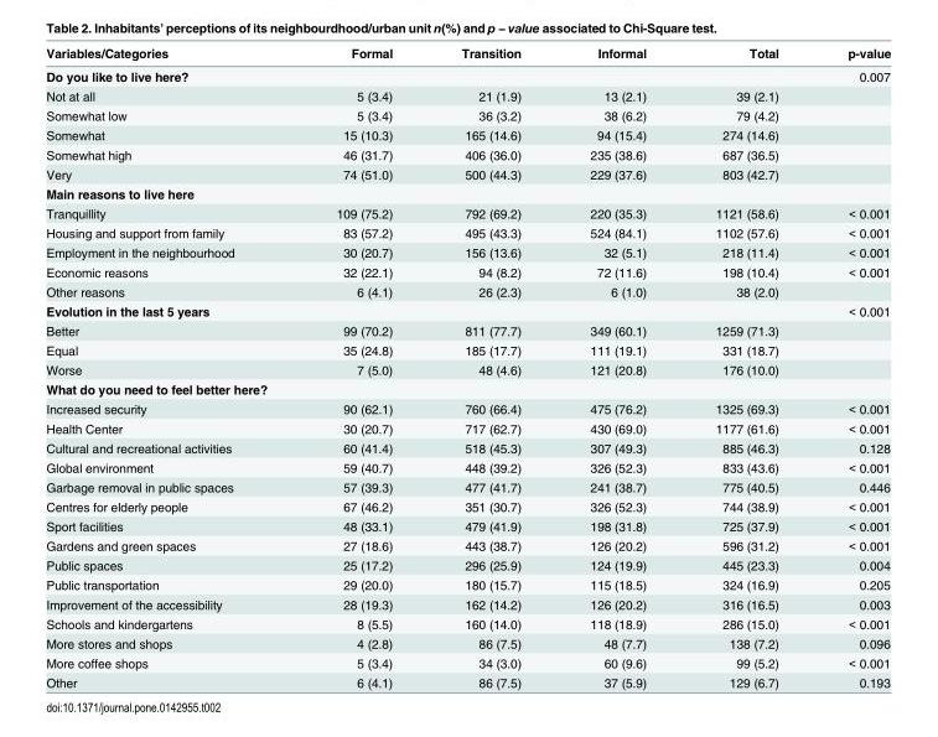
<table><thead><tr><td>Variables/Categories</td><td>Formal</td><td>Transition</td><td>Informal</td><td>Total</td><td>p-value</td></tr></thead><tbody><tr><td>Do you like to live here?</td><td></td><td></td><td></td><td></td><td>0.007</td></tr><tr><td>Not at all</td><td>5 (3.4)</td><td>21 (1.9)</td><td>13 (2.1)</td><td>39 (2.1)</td><td></td></tr><tr><td>Somewhat low</td><td>5 (3.4)</td><td>36 (3.2)</td><td>38 (6.2)</td><td>79 (4.2)</td><td></td></tr><tr><td>Somewhat</td><td>15 (10.3)</td><td>165 (14.6)</td><td>94 (15.4)</td><td>274 (14.6)</td><td></td></tr><tr><td>Somewhat high</td><td>46 (31.7)</td><td>406 (36.0)</td><td>235 (38.6)</td><td>687 (36.5)</td><td></td></tr><tr><td>Very</td><td>74 (51.0)</td><td>500 (44.3)</td><td>229 (37.6)</td><td>803 (42.7)</td><td></td></tr><tr><td colspan="6">Main reasons to live here</td></tr><tr><td>Tranquillity</td><td>109 (75.2)</td><td>792 (69.2)</td><td>220 (35.3)</td><td>1121 (58.6)</td><td>&lt; 0.001</td></tr><tr><td>Housing and support from family</td><td>83 (57.2)</td><td>495 (43.3)</td><td>524 (84.1)</td><td>1102 (57.6)</td><td>&lt; 0.001</td></tr><tr><td>Employment in the neighbourhood</td><td>30 (20.7)</td><td>156 (13.6)</td><td>32 (5.1)</td><td>218 (11.4)</td><td>&lt; 0.001</td></tr><tr><td>Economic reasons</td><td>32 (22.1)</td><td>94 (8.2)</td><td>72 (11.6)</td><td>198 (10.4)</td><td>&lt; 0.001</td></tr><tr><td>Other reasons</td><td>6 (4.1)</td><td>26 (2.3)</td><td>6 (1.0)</td><td>38 (2.0)</td><td></td></tr><tr><td>Evolution in the last 5 years</td><td></td><td></td><td></td><td></td><td>&lt; 0.001</td></tr><tr><td>Better</td><td>99 (70.2)</td><td>811 (77.7)</td><td>349 (60.1)</td><td>1259 (71.3)</td><td></td></tr><tr><td>Equal</td><td>35 (24.8)</td><td>185 (17.7)</td><td>111 (19.1)</td><td>331 (18.7)</td><td></td></tr><tr><td>Worse</td><td>7 (5.0)</td><td>48 (4.6)</td><td>121 (20.8)</td><td>176 (10.0)</td><td></td></tr><tr><td colspan="6">What do you need to feel better here?</td></tr><tr><td>Increased security</td><td>90 (62.1)</td><td>760 (66.4)</td><td>475 (76.2)</td><td>1325 (69.3)</td><td>&lt; 0.001</td></tr><tr><td>Health Center</td><td>30 (20.7)</td><td>717 (62.7)</td><td>430 (69.0)</td><td>1177 (61.6)</td><td>&lt; 0.001</td></tr><tr><td>Cultural and recreational activities</td><td>60 (41.4)</td><td>518 (45.3)</td><td>307 (49.3)</td><td>885 (46.3)</td><td>0.128</td></tr><tr><td>Global environment</td><td>59 (40.7)</td><td>448 (39.2)</td><td>326 (52.3)</td><td>833 (43.6)</td><td>&lt; 0.001</td></tr><tr><td>Garbage removal in public spaces</td><td>57 (39.3)</td><td>477 (41.7)</td><td>241 (38.7)</td><td>775 (40.5)</td><td>0.446</td></tr><tr><td>Centres for elderly people</td><td>67 (46.2)</td><td>351 (30.7)</td><td>326 (52.3)</td><td>744 (38.9)</td><td>&lt; 0.001</td></tr><tr><td>Sport facilities</td><td>48 (33.1)</td><td>479 (41.9)</td><td>198 (31.8)</td><td>725 (37.9)</td><td>&lt; 0.001</td></tr><tr><td>Gardens and green spaces</td><td>27 (18.6)</td><td>443 (38.7)</td><td>126 (20.2)</td><td>596 (31.2)</td><td>&lt; 0.001</td></tr><tr><td>Public spaces</td><td>25 (17.2)</td><td>296 (25.9)</td><td>124 (19.9)</td><td>445 (23.3)</td><td>0.004</td></tr><tr><td>Public transportation</td><td>29 (20.0)</td><td>180 (15.7)</td><td>115 (18.5)</td><td>324 (16.9)</td><td>0.205</td></tr><tr><td>Improvement of the accessibility</td><td>28 (19.3)</td><td>162 (14.2)</td><td>126 (20.2)</td><td>316 (16.5)</td><td>0.003</td></tr><tr><td>Schools and kindergartens</td><td>8 (5.5)</td><td>160 (14.0)</td><td>118 (18.9)</td><td>286 (15.0)</td><td>&lt; 0.001</td></tr><tr><td>More stores and shops</td><td>4 (2.8)</td><td>86 (7.5)</td><td>48 (7.7)</td><td>138 (7.2)</td><td>0.096</td></tr><tr><td>More coffee shops</td><td>5 (3.4)</td><td>34 (3.0)</td><td>60 (9.6)</td><td>99 (5.2)</td><td>&lt; 0.001</td></tr><tr><td>Other</td><td>6 (4.1)</td><td>86 (7.5)</td><td>37 (5.9)</td><td>129 (6.7)</td><td>0.193</td></tr></tbody></table>